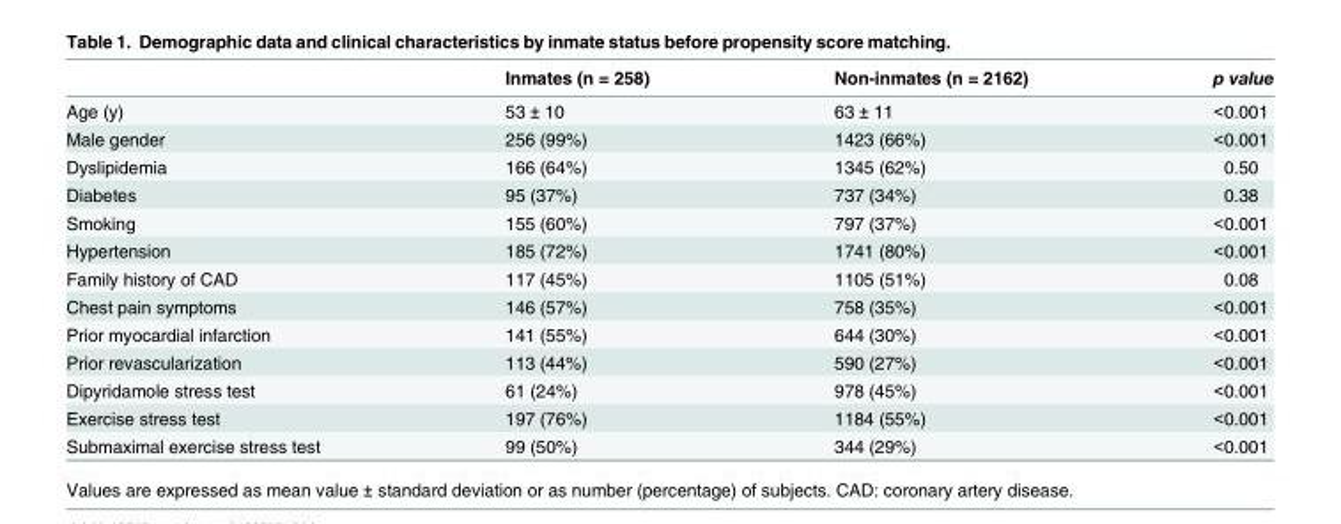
<table><thead><tr><td></td><td>Inmates (n = 258)</td><td>Non-inmates (n = 2162)</td><td>p value</td></tr></thead><tbody><tr><td>Age (y)</td><td>53 ± 10</td><td>63 ± 11</td><td>&lt;0.001</td></tr><tr><td>Male gender</td><td>256 (99%)</td><td>1423 (66%)</td><td>&lt;0.001</td></tr><tr><td>Dyslipidemia</td><td>166 (64%)</td><td>1345 (62%)</td><td>0.50</td></tr><tr><td>Diabetes</td><td>95 (37%)</td><td>737 (34%)</td><td>0.38</td></tr><tr><td>Smoking</td><td>155 (60%)</td><td>797 (37%)</td><td>&lt;0.001</td></tr><tr><td>Hypertension</td><td>185 (72%)</td><td>1741 (80%)</td><td>&lt;0.001</td></tr><tr><td>Family history of CAD</td><td>117 (45%)</td><td>1105 (51%)</td><td>0.08</td></tr><tr><td>Chest pain symptoms</td><td>146 (57%)</td><td>758 (35%)</td><td>&lt;0.001</td></tr><tr><td>Prior myocardial infarction</td><td>141 (55%)</td><td>644 (30%)</td><td>&lt;0.001</td></tr><tr><td>Prior revascularization</td><td>113 (44%)</td><td>590 (27%)</td><td>&lt;0.001</td></tr><tr><td>Dipyridamole stress test</td><td>61 (24%)</td><td>978 (45%)</td><td>&lt;0.001</td></tr><tr><td>Exercise stress test</td><td>197 (76%)</td><td>1184 (55%)</td><td>&lt;0.001</td></tr><tr><td>Submaximal exercise stress test</td><td>99 (50%)</td><td>344 (29%)</td><td>&lt;0.001</td></tr></tbody></table>